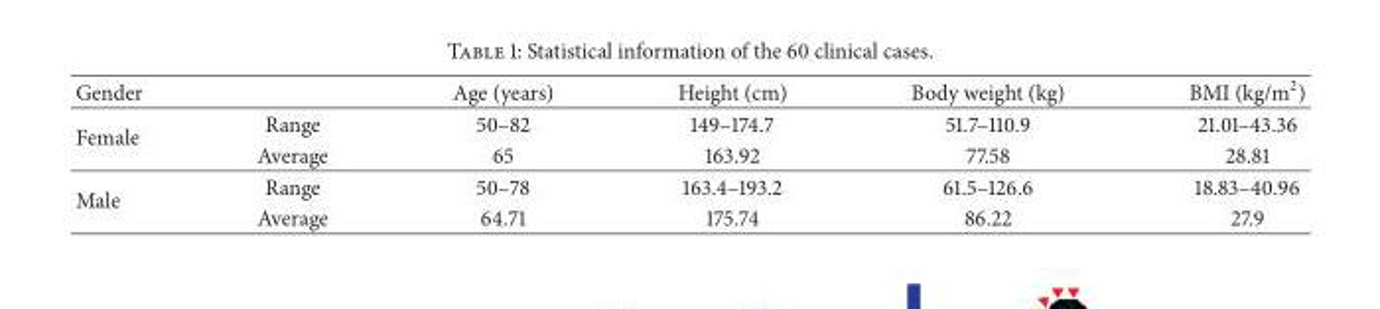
<table><thead><tr><td>Gender</td><td></td><td>Age (years)</td><td>Height (cm)</td><td>Body weight (kg)</td><td>BMI (kg/m<sup>2</sup>)</td></tr></thead><tbody><tr><td rowspan="2">Female</td><td>Range</td><td>50–82</td><td>149–174.7</td><td>51.7–110.9</td><td>21.01–43.36</td></tr><tr><td>Average</td><td>65</td><td>163.92</td><td>77.58</td><td>28.81</td></tr><tr><td rowspan="2">Male</td><td>Range</td><td>50–78</td><td>163.4–193.2</td><td>61.5–126.6</td><td>18.83–40.96</td></tr><tr><td>Average</td><td>64.71</td><td>175.74</td><td>86.22</td><td>27.9</td></tr></tbody></table>